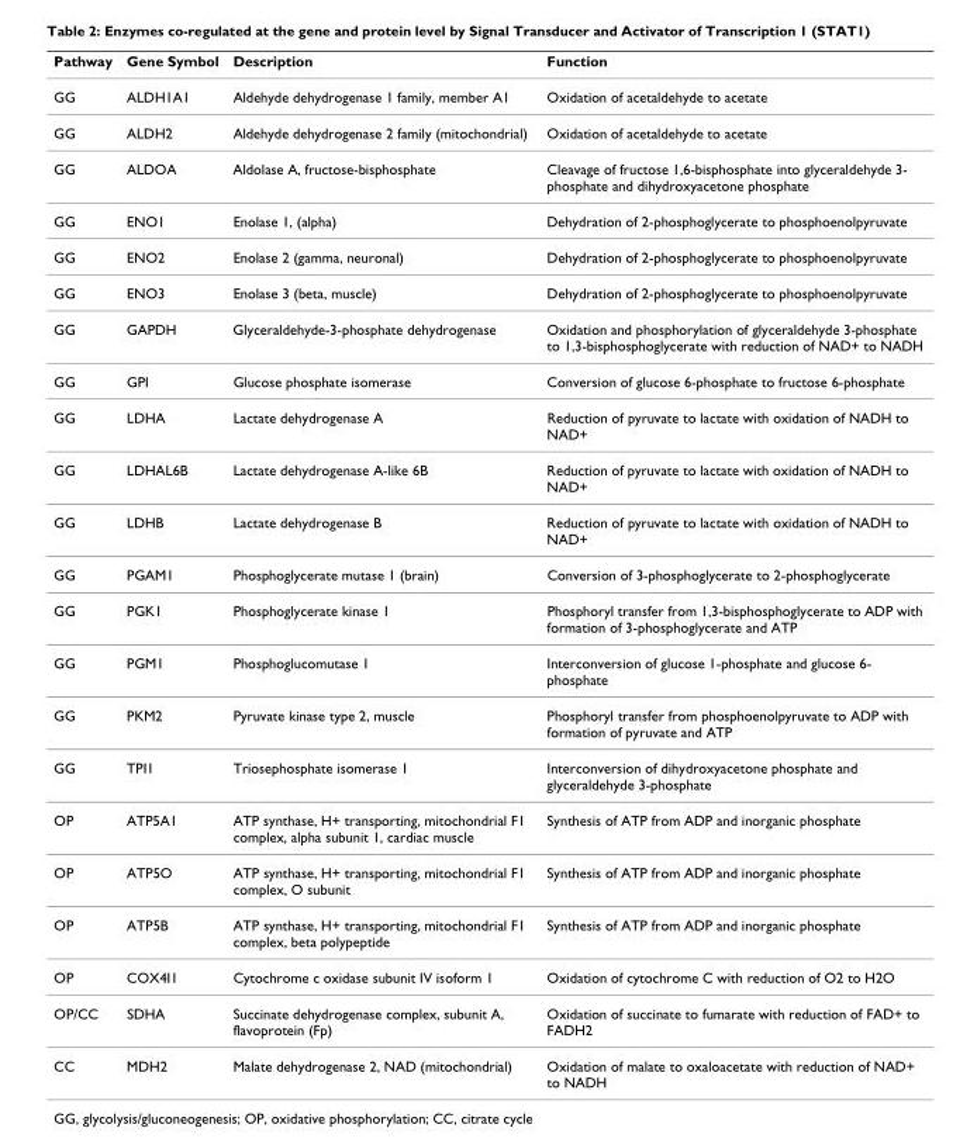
<table><thead><tr><td>Pathway</td><td>Gene Symbol</td><td>Description</td><td>Function</td></tr></thead><tbody><tr><td>GG</td><td>ALDH1A1</td><td>Aldehyde dehydrogenase 1 family, member A1</td><td>Oxidation of acetaldehyde to acetate</td></tr><tr><td>GG</td><td>ALDH2</td><td>Aldehyde dehydrogenase 2 family (mitochondrial)</td><td>Oxidation of acetaldehyde to acetate</td></tr><tr><td>GG</td><td>ALDOA</td><td>Aldolase A, fructose-bisphosphate</td><td>Cleavage of fructose 1,6-bisphosphate into glyceraldehyde 3- phosphate and dihydroxyacetone phosphate</td></tr><tr><td>GG</td><td>ENO1</td><td>Enolase 1, (alpha)</td><td>Dehydration of 2-phosphoglycerate to phosphoenolpyruvate</td></tr><tr><td>GG</td><td>ENO2</td><td>Enolase 2 (gamma, neuronal)</td><td>Dehydration of 2-phosphoglycerate to phosphoenolpyruvate</td></tr><tr><td>GG</td><td>ENO3</td><td>Enolase 3 (beta, muscle)</td><td>Dehydration of 2-phosphoglycerate to phosphoenolpyruvate</td></tr><tr><td>GG</td><td>GAPDH</td><td>Glyceraldehyde-3-phosphate dehydrogenase</td><td>Oxidation and phosphorylation of glyceraldehyde 3-phosphate to 1,3-bisphosphoglycerate with reduction of NAD+ to NADH</td></tr><tr><td>GG</td><td>GPI</td><td>Glucose phosphate isomerase</td><td>Conversion of glucose 6-phosphate to fructose 6-phosphate</td></tr><tr><td>GG</td><td>LDHA</td><td>Lactate dehydrogenase A</td><td>Reduction of pyruvate to lactate with oxidation of NADH to NAD+</td></tr><tr><td>GG</td><td>LDHAL6B</td><td>Lactate dehydrogenase A-like 6B</td><td>Reduction of pyruvate to lactate with oxidation of NADH to NAD+</td></tr><tr><td>GG</td><td>LDHB</td><td>Lactate dehydrogenase B</td><td>Reduction of pyruvate to lactate with oxidation of NADH to NAD+</td></tr><tr><td>GG</td><td>PGAM1</td><td>Phosphoglycerate mutase 1 (brain)</td><td>Conversion of 3-phosphoglycerate to 2-phosphoglycerate</td></tr><tr><td>GG</td><td>PGK1</td><td>Phosphoglycerate kinase 1</td><td>Phosphoryl transfer from 1,3-bisphosphoglycerate to ADP with formation of 3-phosphoglycerate and ATP</td></tr><tr><td>GG</td><td>PGM1</td><td>Phosphoglucomutase 1</td><td>Interconversion of glucose 1-phosphate and glucose 6- phosphate</td></tr><tr><td>GG</td><td>PKM2</td><td>Pyruvate kinase type 2, muscle</td><td>Phosphoryl transfer from phosphoenolpyruvate to ADP with formation of pyruvate and ATP</td></tr><tr><td>GG</td><td>TPI1</td><td>Triosephosphate isomerase 1</td><td>Interconversion of dihydroxyacetone phosphate and glyceraldehyde 3-phosphate</td></tr><tr><td>OP</td><td>ATP5A1</td><td>ATP synthase, H+ transporting, mitochondrial F1 complex, alpha subunit 1, cardiac muscle</td><td>Synthesis of ATP from ADP and inorganic phosphate</td></tr><tr><td>OP</td><td>ATP5O</td><td>ATP synthase, H+ transporting, mitochondrial F1 complex, O subunit</td><td>Synthesis of ATP from ADP and inorganic phosphate</td></tr><tr><td>OP</td><td>ATP5B</td><td>ATP synthase, H+ transporting, mitochondrial F1 complex, beta polypeptide</td><td>Synthesis of ATP from ADP and inorganic phosphate</td></tr><tr><td>OP</td><td>COX4I1</td><td>Cytochrome c oxidase subunit IV isoform 1</td><td>Oxidation of cytochrome C with reduction of O2 to H2O</td></tr><tr><td>OP/CC</td><td>SDHA</td><td>Succinate dehydrogenase complex, subunit A, flavoprotein (Fp)</td><td>Oxidation of succinate to fumarate with reduction of FAD+ to FADH2</td></tr><tr><td>CC</td><td>MDH2</td><td>Malate dehydrogenase 2, NAD (mitochondrial)</td><td>Oxidation of malate to oxaloacetate with reduction of NAD+ to NADH</td></tr></tbody></table>